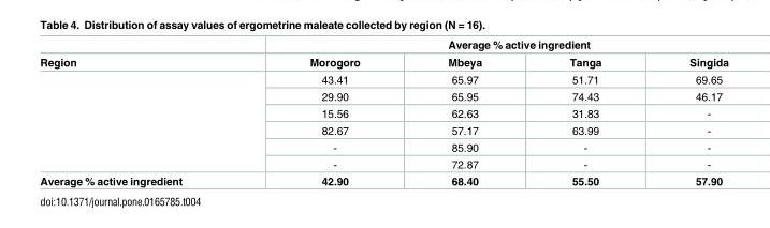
<table><thead><tr><td rowspan="2">Region</td><td colspan="4">Average % active ingredient</td></tr><tr><td>Morogoro</td><td>Mbeya</td><td>Tanga</td><td>Singida</td></tr></thead><tbody><tr><td rowspan="6"></td><td>43.41</td><td>65.97</td><td>51.71</td><td>69.65</td></tr><tr><td>29.90</td><td>65.95</td><td>74.43</td><td>46.17</td></tr><tr><td>15.56</td><td>62.63</td><td>31.83</td><td>-</td></tr><tr><td>82.67</td><td>57.17</td><td>63.99</td><td>-</td></tr><tr><td>-</td><td>85.90</td><td>-</td><td>-</td></tr><tr><td>-</td><td>72.87</td><td>-</td><td>-</td></tr><tr><td>Average % active ingredient</td><td>42.90</td><td>68.40</td><td>55.50</td><td>57.90</td></tr></tbody></table>